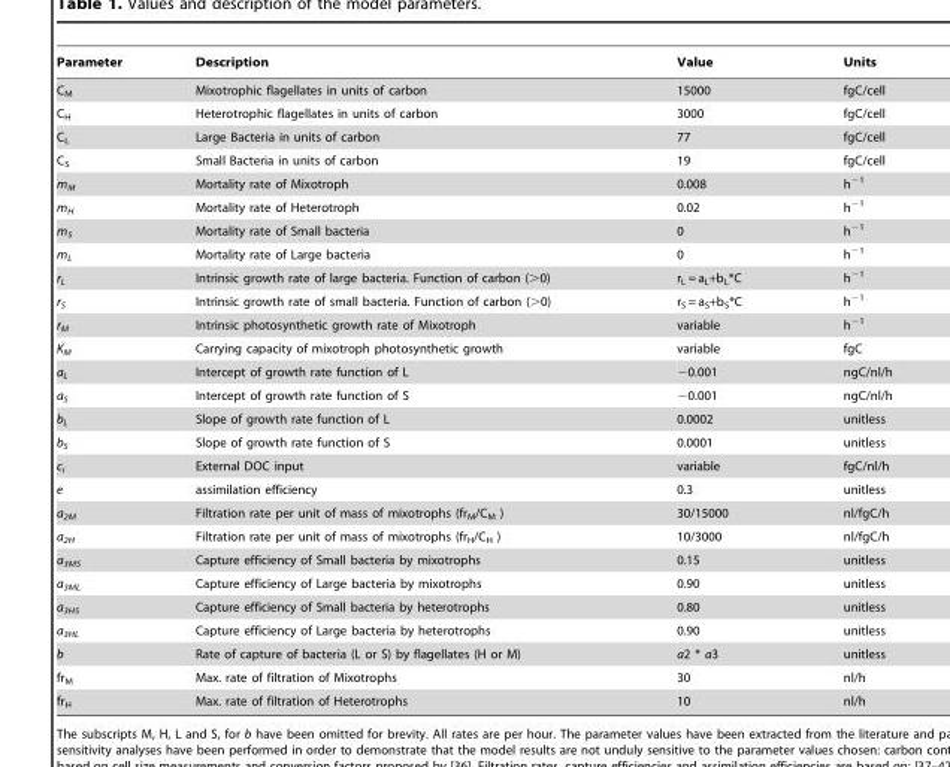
<table><thead><tr><td>Parameter</td><td>Description</td><td>Value</td><td>Units</td></tr></thead><tbody><tr><td>C<sub>M</sub></td><td>Mixotrophic flagellates in units of carbon</td><td>15000</td><td>fgC/cell</td></tr><tr><td>C<sub>H</sub></td><td>Heterotrophic flagellates in units of carbon</td><td>3000</td><td>fgC/cell</td></tr><tr><td>C<sub>L</sub></td><td>Large Bacteria in units of carbon</td><td>77</td><td>fgC/cell</td></tr><tr><td>C<sub>S</sub></td><td>Small Bacteria in units of carbon</td><td>19</td><td>fgC/cell</td></tr><tr><td>m<sub>M</sub></td><td>Mortality rate of Mixotroph</td><td>0.008</td><td>h<sup>−1</sup></td></tr><tr><td>m<sub>H</sub></td><td>Mortality rate of Heterotroph</td><td>0.02</td><td>h<sup>−1</sup></td></tr><tr><td>m<sub>S</sub></td><td>Mortality rate of Small bacteria</td><td>0</td><td>h<sup>−1</sup></td></tr><tr><td>m<sub>L</sub></td><td>Mortality rate of Large bacteria</td><td>0</td><td>h<sup>−1</sup></td></tr><tr><td>r<sub>L</sub></td><td>Intrinsic growth rate of large bacteria. Function of carbon (&gt;0)</td><td>r<sub>L</sub> = a<sub>L</sub>+b<sub>L</sub>*C</td><td>h<sup>−1</sup></td></tr><tr><td>r<sub>S</sub></td><td>Intrinsic growth rate of small bacteria. Function of carbon (&gt;0)</td><td>r<sub>S</sub> = a<sub>S</sub>+b<sub>S</sub>*C</td><td>h<sup>−1</sup></td></tr><tr><td>r<sub>M</sub></td><td>Intrinsic photosynthetic growth rate of Mixotroph</td><td>variable</td><td>h<sup>−1</sup></td></tr><tr><td>K<sub>M</sub></td><td>Carrying capacity of mixotroph photosynthetic growth</td><td>variable</td><td>fgC</td></tr><tr><td>a<sub>L</sub></td><td>Intercept of growth rate function of L</td><td>−0.001</td><td>ngC/nl/h</td></tr><tr><td>a<sub>S</sub></td><td>Intercept of growth rate function of S</td><td>−0.001</td><td>ngC/nl/h</td></tr><tr><td>b<sub>L</sub></td><td>Slope of growth rate function of L</td><td>0.0002</td><td>unitless</td></tr><tr><td>b<sub>S</sub></td><td>Slope of growth rate function of S</td><td>0.0001</td><td>unitless</td></tr><tr><td>c<sub>i</sub></td><td>External DOC input</td><td>variable</td><td>fgC/nl/h</td></tr><tr><td>e</td><td>assimilation efficiency</td><td>0.3</td><td>unitless</td></tr><tr><td>a<sub>2M</sub></td><td>Filtration rate per unit of mass of mixotrophs (fr<sub>M</sub>/C<sub>M</sub> )</td><td>30/15000</td><td>nl/fgC/h</td></tr><tr><td>a<sub>2H</sub></td><td>Filtration rate per unit of mass of mixotrophs (fr<sub>H</sub>/C<sub>H</sub> )</td><td>10/3000</td><td>nl/fgC/h</td></tr><tr><td>a<sub>3MS</sub></td><td>Capture efficiency of Small bacteria by mixotrophs</td><td>0.15</td><td>unitless</td></tr><tr><td>a<sub>3ML</sub></td><td>Capture efficiency of Large bacteria by mixotrophs</td><td>0.90</td><td>unitless</td></tr><tr><td>a<sub>3HS</sub></td><td>Capture efficiency of Small bacteria by heterotrophs</td><td>0.80</td><td>unitless</td></tr><tr><td>a<sub>3HL</sub></td><td>Capture efficiency of Large bacteria by heterotrophs</td><td>0.90</td><td>unitless</td></tr><tr><td>b</td><td>Rate of capture of bacteria (L or S) by flagellates (H or M)</td><td>a2 * a3</td><td>unitless</td></tr><tr><td>fr<sub>M</sub></td><td>Max. rate of filtration of Mixotrophs</td><td>30</td><td>nl/h</td></tr><tr><td>fr<sub>H</sub></td><td>Max. rate of filtration of Heterotrophs</td><td>10</td><td>nl/h</td></tr></tbody></table>